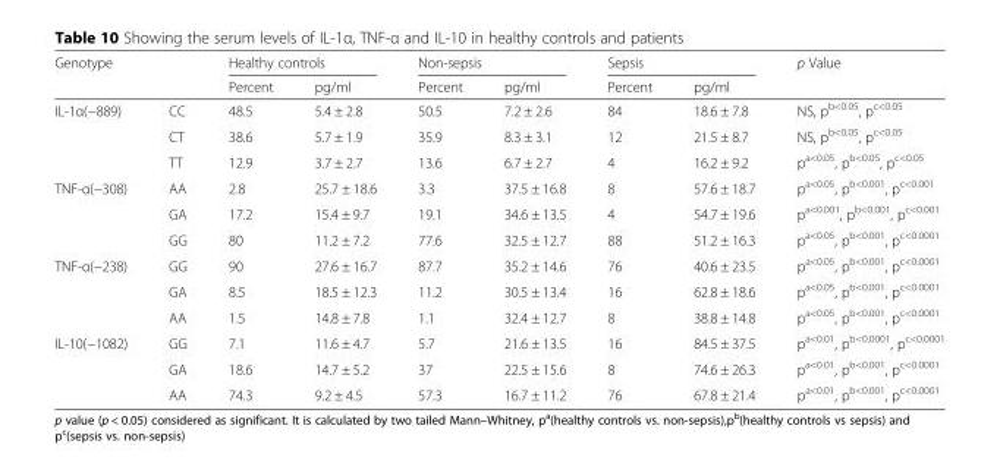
<table><thead><tr><td rowspan="2">Genotype</td><td rowspan="2"></td><td colspan="2">Healthy controls</td><td colspan="2">Non-sepsis</td><td colspan="2">Sepsis</td><td rowspan="2">p Value</td></tr><tr><td>Percent</td><td>pg/ml</td><td>Percent</td><td>pg/ml</td><td>Percent</td><td>pg/ml</td></tr></thead><tbody><tr><td rowspan="3">IL-1α(−889)</td><td>CC</td><td>48.5</td><td>5.4 ± 2.8</td><td>50.5</td><td>7.2 ± 2.6</td><td>84</td><td>18.6 ± 7.8</td><td>NS, p<sup>b&lt;0.05</sup>, p<sup>c&lt;0.05</sup></td></tr><tr><td>CT</td><td>38.6</td><td>5.7 ± 1.9</td><td>35.9</td><td>8.3 ± 3.1</td><td>12</td><td>21.5 ± 8.7</td><td>NS, p<sup>b&lt;0.05</sup>, p<sup>c&lt;0.05</sup></td></tr><tr><td>TT</td><td>12.9</td><td>3.7 ± 2.7</td><td>13.6</td><td>6.7 ± 2.7</td><td>4</td><td>16.2 ± 9.2</td><td>p<sup>a&lt;0.05</sup>, p<sup>b&lt;0.05</sup>, p<sup>c&lt;0.05</sup></td></tr><tr><td rowspan="3">TNF-α(−308)</td><td>AA</td><td>2.8</td><td>25.7 ± 18.6</td><td>3.3</td><td>37.5 ± 16.8</td><td>8</td><td>57.6 ± 18.7</td><td>p<sup>a&lt;0.05</sup>, p<sup>b&lt;0.001</sup>, p<sup>c&lt;0.001</sup></td></tr><tr><td>GA</td><td>17.2</td><td>15.4 ± 9.7</td><td>19.1</td><td>34.6 ± 13.5</td><td>4</td><td>54.7 ± 19.6</td><td>p<sup>a&lt;0.001</sup>, p<sup>b&lt;0.001</sup>, p<sup>c&lt;0.001</sup></td></tr><tr><td>GG</td><td>80</td><td>11.2 ± 7.2</td><td>77.6</td><td>32.5 ± 12.7</td><td>88</td><td>51.2 ± 16.3</td><td>p<sup>a&lt;0.05</sup>, p<sup>b&lt;0.001</sup>, p<sup>c&lt;0.0001</sup></td></tr><tr><td rowspan="3">TNF-α(−238)</td><td>GG</td><td>90</td><td>27.6 ± 16.7</td><td>87.7</td><td>35.2 ± 14.6</td><td>76</td><td>40.6 ± 23.5</td><td>p<sup>a&lt;0.05</sup>, p<sup>b&lt;0.001</sup>, p<sup>c&lt;0.0001</sup></td></tr><tr><td>GA</td><td>8.5</td><td>18.5 ± 12.3</td><td>11.2</td><td>30.5 ± 13.4</td><td>16</td><td>62.8 ± 18.6</td><td>p<sup>a&lt;0.05</sup>, p<sup>b&lt;0.001</sup>, p<sup>c&lt;0.0001</sup></td></tr><tr><td>AA</td><td>1.5</td><td>14.8 ± 7.8</td><td>1.1</td><td>32.4 ± 12.7</td><td>8</td><td>38.8 ± 14.8</td><td>p<sup>a&lt;0.05</sup>, p<sup>b&lt;0.001</sup>, p<sup>c&lt;0.0001</sup></td></tr><tr><td rowspan="3">IL-10(−1082)</td><td>GG</td><td>7.1</td><td>11.6 ± 4.7</td><td>5.7</td><td>21.6 ± 13.5</td><td>16</td><td>84.5 ± 37.5</td><td>p<sup>a&lt;0.01</sup>, p<sup>b&lt;0.0001</sup>, p<sup>c&lt;0.0001</sup></td></tr><tr><td>GA</td><td>18.6</td><td>14.7 ± 5.2</td><td>37</td><td>22.5 ± 15.6</td><td>8</td><td>74.6 ± 26.3</td><td>p<sup>a&lt;0.01</sup>, p<sup>b&lt;0.001</sup>, p<sup>c&lt;0.0001</sup></td></tr><tr><td>AA</td><td>74.3</td><td>9.2 ± 4.5</td><td>57.3</td><td>16.7 ± 11.2</td><td>76</td><td>67.8 ± 21.4</td><td>p<sup>a&lt;0.01</sup>, p<sup>b&lt;0.001</sup>, p<sup>c&lt;0.0001</sup></td></tr></tbody></table>